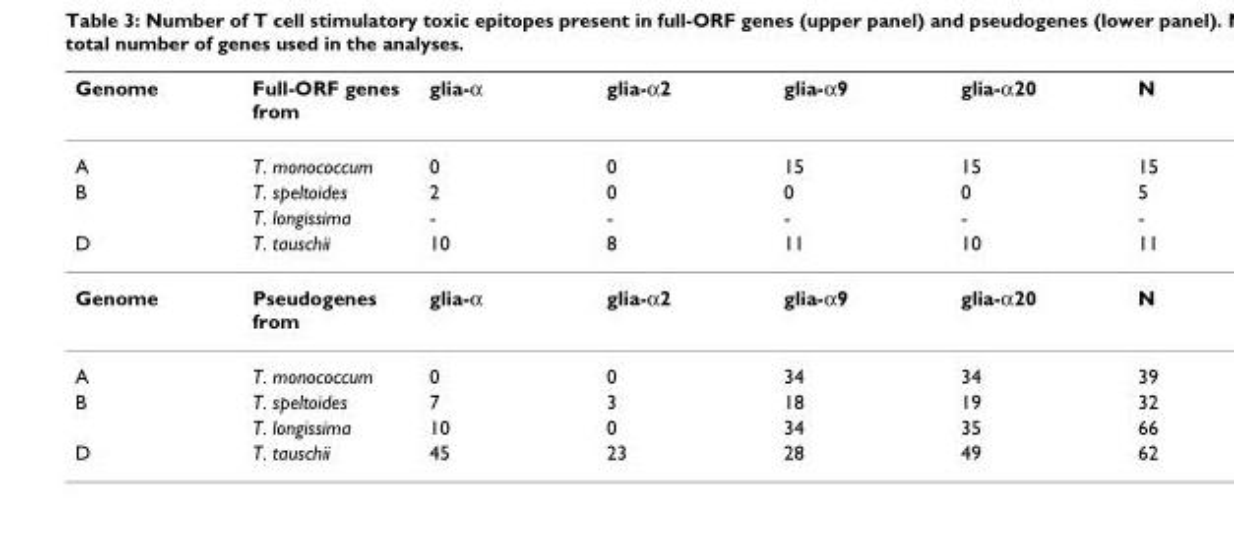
<table><thead><tr><td>Genome</td><td>Full-ORF genes from</td><td>glia-α</td><td>glia-α2</td><td>glia-α9</td><td>glia-α20</td><td>N</td></tr></thead><tbody><tr><td>A</td><td>T. monococcum</td><td>0</td><td>0</td><td>15</td><td>15</td><td>15</td></tr><tr><td rowspan="2">B</td><td>T. speltoides</td><td>2</td><td>0</td><td>0</td><td>0</td><td>5</td></tr><tr><td>T. longissima</td><td>-</td><td>-</td><td>-</td><td>-</td><td>-</td></tr><tr><td>D</td><td>T. tauschii</td><td>10</td><td>8</td><td>11</td><td>10</td><td>11</td></tr><tr><td>Genome</td><td>Pseudogenes from</td><td>glia-α</td><td>glia-α2</td><td>glia-α9</td><td>glia-α20</td><td>N</td></tr><tr><td>A</td><td>T. monococcum</td><td>0</td><td>0</td><td>34</td><td>34</td><td>39</td></tr><tr><td rowspan="2">B</td><td>T. speltoides</td><td>7</td><td>3</td><td>18</td><td>19</td><td>32</td></tr><tr><td>T. longissima</td><td>10</td><td>0</td><td>34</td><td>35</td><td>66</td></tr><tr><td>D</td><td>T. tauschii</td><td>45</td><td>23</td><td>28</td><td>49</td><td>62</td></tr></tbody></table>